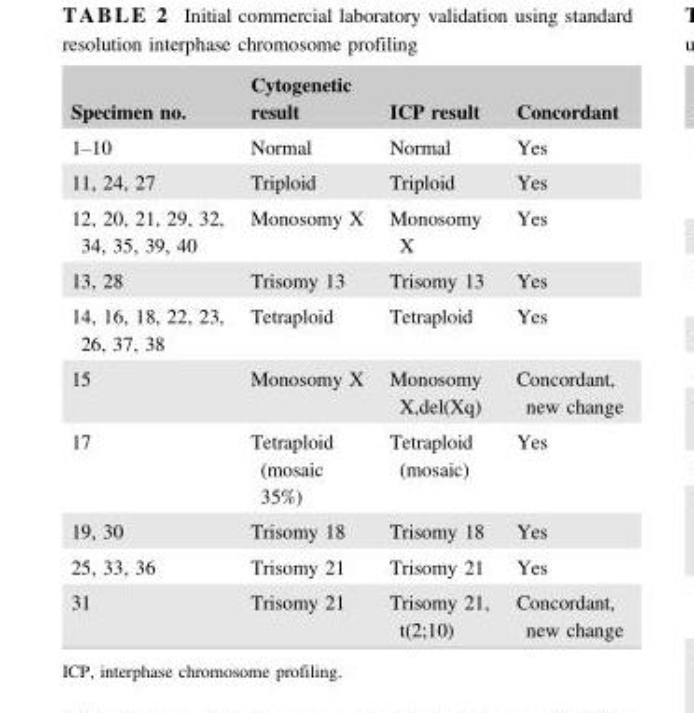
<table><thead><tr><td>Specimen no.</td><td>Cytogenetic result</td><td>ICP result</td><td>Concordant</td></tr></thead><tbody><tr><td>1–10</td><td>Normal</td><td>Normal</td><td>Yes</td></tr><tr><td>11, 24, 27</td><td>Triploid</td><td>Triploid</td><td>Yes</td></tr><tr><td>12, 20, 21, 29, 32, 34, 35, 39, 40</td><td>Monosomy X</td><td>Monosomy X</td><td>Yes</td></tr><tr><td>13, 28</td><td>Trisomy 13</td><td>Trisomy 13</td><td>Yes</td></tr><tr><td>14, 16, 18, 22, 23, 26, 37, 38</td><td>Tetraploid</td><td>Tetraploid</td><td>Yes</td></tr><tr><td>15</td><td>Monosomy X</td><td>Monosomy X,del(Xq)</td><td>Concordant, new change</td></tr><tr><td>17</td><td>Tetraploid (mosaic 35%)</td><td>Tetraploid (mosaic)</td><td>Yes</td></tr><tr><td>19, 30</td><td>Trisomy 18</td><td>Trisomy 18</td><td>Yes</td></tr><tr><td>25, 33, 36</td><td>Trisomy 21</td><td>Trisomy 21</td><td>Yes</td></tr><tr><td>31</td><td>Trisomy 21</td><td>Trisomy 21, t(2;10)</td><td>Concordant, new change</td></tr></tbody></table>